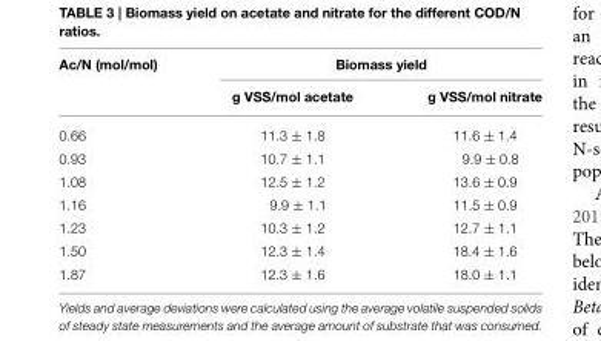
<table><thead><tr><td rowspan="2">Ac/N (mol/mol)</td><td colspan="2">Biomass yield</td></tr><tr><td>g VSS/mol acetate</td><td>g VSS/mol nitrate</td></tr></thead><tbody><tr><td>0.66</td><td>11.3 ± 1.8</td><td>11.6 ± 1.4</td></tr><tr><td>0.93</td><td>10.7 ± 1.1</td><td>9.9 ± 0.8</td></tr><tr><td>1.08</td><td>12.5 ± 1.2</td><td>13.6 ± 0.9</td></tr><tr><td>1.16</td><td>9.9 ± 1.1</td><td>11.5 ± 0.9</td></tr><tr><td>1.23</td><td>10.3 ± 1.2</td><td>12.7 ± 1.1</td></tr><tr><td>1.50</td><td>12.3 ± 1.4</td><td>18.4 ± 1.6</td></tr><tr><td>1.87</td><td>12.3 ± 1.6</td><td>18.0 ± 1.1</td></tr></tbody></table>